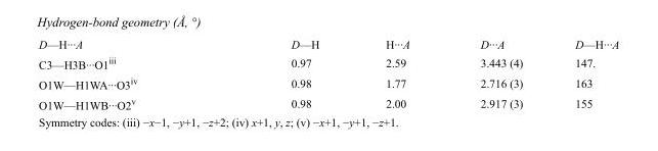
<table><tbody><tr><td>D—H···A</td><td>D—H</td><td>H···A</td><td>D···A</td><td>D—H···A</td></tr><tr><td>C3—H3B···O1<sup>iii</sup></td><td>0.97</td><td>2.59</td><td>3.443 (4)</td><td>147.</td></tr><tr><td>O1W—H1WA···O3<sup>iv</sup></td><td>0.98</td><td>1.77</td><td>2.716 (3)</td><td>163</td></tr><tr><td>O1W—H1WB···O2<sup>v</sup></td><td>0.98</td><td>2.00</td><td>2.917 (3)</td><td>155</td></tr></tbody></table>